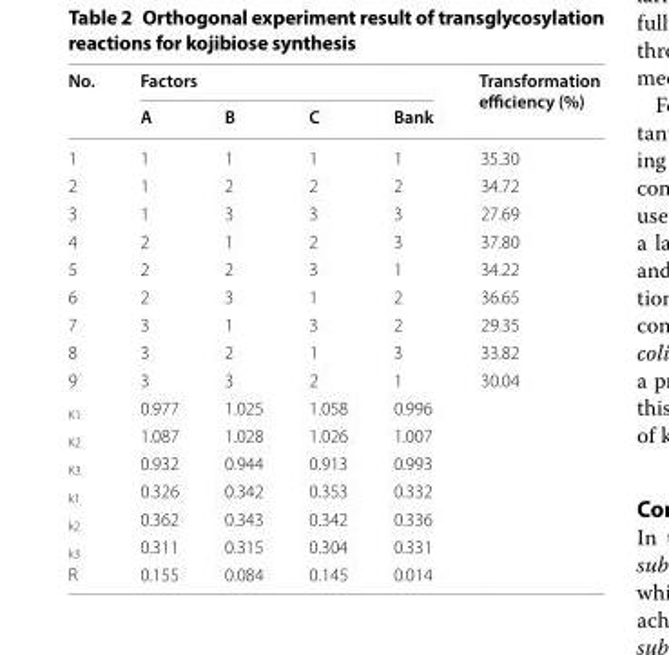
<table><thead><tr><td rowspan="2">No.</td><td colspan="4">Factors</td><td rowspan="2">Transformation efficiency (%)</td></tr><tr><td>A</td><td>B</td><td>C</td><td>Bank</td></tr></thead><tbody><tr><td>1</td><td>1</td><td>1</td><td>1</td><td>1</td><td>35.30</td></tr><tr><td>2</td><td>1</td><td>2</td><td>2</td><td>2</td><td>34.72</td></tr><tr><td>3</td><td>1</td><td>3</td><td>3</td><td>3</td><td>27.69</td></tr><tr><td>4</td><td>2</td><td>1</td><td>2</td><td>3</td><td>37.80</td></tr><tr><td>5</td><td>2</td><td>2</td><td>3</td><td>1</td><td>34.22</td></tr><tr><td>6</td><td>2</td><td>3</td><td>1</td><td>2</td><td>36.65</td></tr><tr><td>7</td><td>3</td><td>1</td><td>3</td><td>2</td><td>29.35</td></tr><tr><td>8</td><td>3</td><td>2</td><td>1</td><td>3</td><td>33.82</td></tr><tr><td>9</td><td>3</td><td>3</td><td>2</td><td>1</td><td>30.04</td></tr><tr><td><sub>K1</sub></td><td>0.977</td><td>1.025</td><td>1.058</td><td>0.996</td><td></td></tr><tr><td><sub>K2</sub></td><td>1.087</td><td>1.028</td><td>1.026</td><td>1.007</td><td></td></tr><tr><td><sub>K3</sub></td><td>0.932</td><td>0.944</td><td>0.913</td><td>0.993</td><td></td></tr><tr><td><sub>k1</sub></td><td>0.326</td><td>0.342</td><td>0.353</td><td>0.332</td><td></td></tr><tr><td><sub>k2</sub></td><td>0.362</td><td>0.343</td><td>0.342</td><td>0.336</td><td></td></tr><tr><td><sub>k3</sub></td><td>0.311</td><td>0.315</td><td>0.304</td><td>0.331</td><td></td></tr><tr><td>R</td><td>0.155</td><td>0.084</td><td>0.145</td><td>0.014</td><td></td></tr></tbody></table>